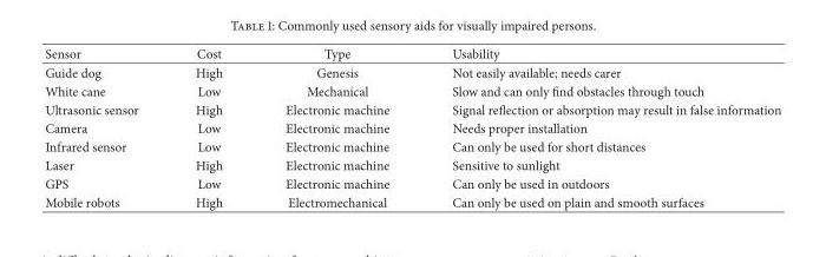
<table><thead><tr><td>Sensor</td><td>Cost</td><td>Type</td><td>Usability</td></tr></thead><tbody><tr><td>Guide dog</td><td>High</td><td>Genesis</td><td>Not easily available; needs carer</td></tr><tr><td>White cane</td><td>Low</td><td>Mechanical</td><td>Slow and can only find obstacles through touch</td></tr><tr><td>Ultrasonic sensor</td><td>High</td><td>Electronic machine</td><td>Signal reflection or absorption may result in false information</td></tr><tr><td>Camera</td><td>Low</td><td>Electronic machine</td><td>Needs proper installation</td></tr><tr><td>Infrared sensor</td><td>Low</td><td>Electronic machine</td><td>Can only be used for short distances</td></tr><tr><td>Laser</td><td>High</td><td>Electronic machine</td><td>Sensitive to sunlight</td></tr><tr><td>GPS</td><td>Low</td><td>Electronic machine</td><td>Can only be used in outdoors</td></tr><tr><td>Mobile robots</td><td>High</td><td>Electromechanical</td><td>Can only be used on plain and smooth surfaces</td></tr></tbody></table>